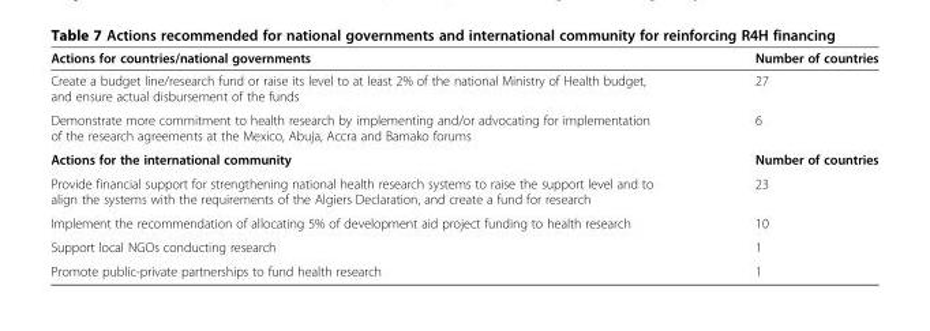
<table><thead><tr><td>Actions for countries/national governments</td><td>Number of countries</td></tr></thead><tbody><tr><td>Create a budget line/research fund or raise its level to at least 2% of the national Ministry of Health budget, and ensure actual disbursement of the funds</td><td>27</td></tr><tr><td>Demonstrate more commitment to health research by implementing and/or advocating for implementation of the research agreements at the Mexico, Abuja, Accra and Bamako forums</td><td>6</td></tr><tr><td>Actions for the international community</td><td>Number of countries</td></tr><tr><td>Provide financial support for strengthening national health research systems to raise the support level and to align the systems with the requirements of the Algiers Declaration, and create a fund for research</td><td>23</td></tr><tr><td>Implement the recommendation of allocating 5% of development aid project funding to health research</td><td>10</td></tr><tr><td>Support local NGOs conducting research</td><td>1</td></tr><tr><td>Promote public-private partnerships to fund health research</td><td>1</td></tr></tbody></table>